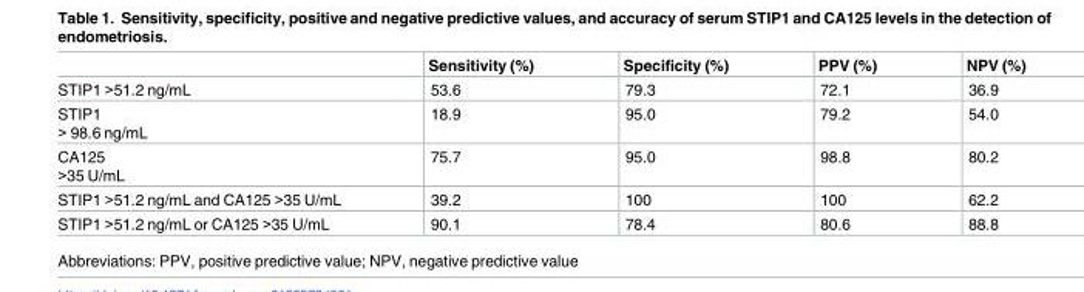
<table><thead><tr><td></td><td>Sensitivity (%)</td><td>Specificity (%)</td><td>PPV (%)</td><td>NPV (%)</td></tr></thead><tbody><tr><td>STIP1 &gt;51.2 ng/mL</td><td>53.6</td><td>79.3</td><td>72.1</td><td>36.9</td></tr><tr><td>STIP1 &gt; 98.6 ng/mL</td><td>18.9</td><td>95.0</td><td>79.2</td><td>54.0</td></tr><tr><td>CA125 &gt;35 U/mL</td><td>75.7</td><td>95.0</td><td>98.8</td><td>80.2</td></tr><tr><td>STIP1 &gt;51.2 ng/mL and CA125 &gt;35 U/mL</td><td>39.2</td><td>100</td><td>100</td><td>62.2</td></tr><tr><td>STIP1 &gt;51.2 ng/mL or CA125 &gt;35 U/mL</td><td>90.1</td><td>78.4</td><td>80.6</td><td>88.8</td></tr></tbody></table>